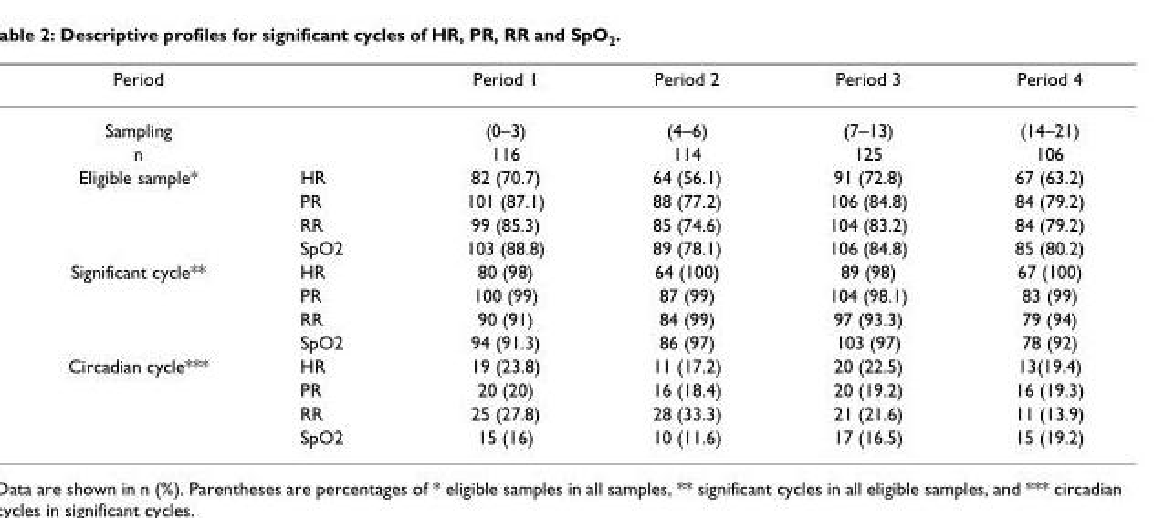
<table><thead><tr><td>Period</td><td></td><td>Period 1</td><td>Period 2</td><td>Period 3</td><td>Period 4</td></tr></thead><tbody><tr><td>Sampling</td><td></td><td>(0–3)</td><td>(4–6)</td><td>(7–13)</td><td>(14–21)</td></tr><tr><td>n</td><td></td><td>116</td><td>114</td><td>125</td><td>106</td></tr><tr><td rowspan="4">Eligible sample*</td><td>HR</td><td>82 (70.7)</td><td>64 (56.1)</td><td>91 (72.8)</td><td>67 (63.2)</td></tr><tr><td>PR</td><td>101 (87.1)</td><td>88 (77.2)</td><td>106 (84.8)</td><td>84 (79.2)</td></tr><tr><td>RR</td><td>99 (85.3)</td><td>85 (74.6)</td><td>104 (83.2)</td><td>84 (79.2)</td></tr><tr><td>SpO2</td><td>103 (88.8)</td><td>89 (78.1)</td><td>106 (84.8)</td><td>85 (80.2)</td></tr><tr><td rowspan="4">Significant cycle**</td><td>HR</td><td>80 (98)</td><td>64 (100)</td><td>89 (98)</td><td>67 (100)</td></tr><tr><td>PR</td><td>100 (99)</td><td>87 (99)</td><td>104 (98.1)</td><td>83 (99)</td></tr><tr><td>RR</td><td>90 (91)</td><td>84 (99)</td><td>97 (93.3)</td><td>79 (94)</td></tr><tr><td>SpO2</td><td>94 (91.3)</td><td>86 (97)</td><td>103 (97)</td><td>78 (92)</td></tr><tr><td rowspan="4">Circadian cycle***</td><td>HR</td><td>19 (23.8)</td><td>11 (17.2)</td><td>20 (22.5)</td><td>13(19.4)</td></tr><tr><td>PR</td><td>20 (20)</td><td>16 (18.4)</td><td>20 (19.2)</td><td>16 (19.3)</td></tr><tr><td>RR</td><td>25 (27.8)</td><td>28 (33.3)</td><td>21 (21.6)</td><td>11 (13.9)</td></tr><tr><td>SpO2</td><td>15 (16)</td><td>10 (11.6)</td><td>17 (16.5)</td><td>15 (19.2)</td></tr></tbody></table>